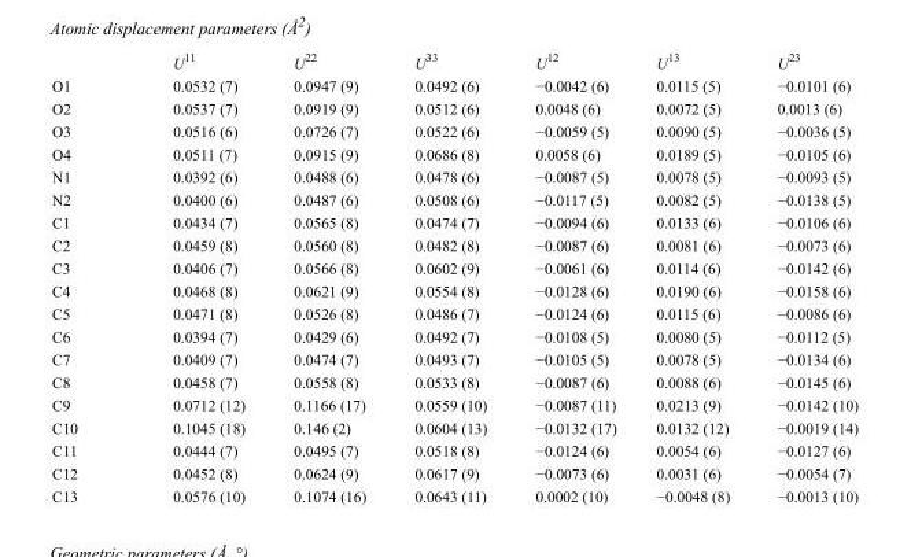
<table><thead><tr><td></td><td>U<sup>11</sup></td><td>U<sup>22</sup></td><td>U<sup>33</sup></td><td>U<sup>12</sup></td><td>U<sup>13</sup></td><td>U<sup>23</sup></td></tr></thead><tbody><tr><td>O1</td><td>0.0532 (7)</td><td>0.0947 (9)</td><td>0.0492 (6)</td><td>−0.0042 (6)</td><td>0.0115 (5)</td><td>−0.0101 (6)</td></tr><tr><td>O2</td><td>0.0537 (7)</td><td>0.0919 (9)</td><td>0.0512 (6)</td><td>0.0048 (6)</td><td>0.0072 (5)</td><td>0.0013 (6)</td></tr><tr><td>O3</td><td>0.0516 (6)</td><td>0.0726 (7)</td><td>0.0522 (6)</td><td>−0.0059 (5)</td><td>0.0090 (5)</td><td>−0.0036 (5)</td></tr><tr><td>O4</td><td>0.0511 (7)</td><td>0.0915 (9)</td><td>0.0686 (8)</td><td>0.0058 (6)</td><td>0.0189 (5)</td><td>−0.0105 (6)</td></tr><tr><td>N1</td><td>0.0392 (6)</td><td>0.0488 (6)</td><td>0.0478 (6)</td><td>−0.0087 (5)</td><td>0.0078 (5)</td><td>−0.0093 (5)</td></tr><tr><td>N2</td><td>0.0400 (6)</td><td>0.0487 (6)</td><td>0.0508 (6)</td><td>−0.0117 (5)</td><td>0.0082 (5)</td><td>−0.0138 (5)</td></tr><tr><td>C1</td><td>0.0434 (7)</td><td>0.0565 (8)</td><td>0.0474 (7)</td><td>−0.0094 (6)</td><td>0.0133 (6)</td><td>−0.0106 (6)</td></tr><tr><td>C2</td><td>0.0459 (8)</td><td>0.0560 (8)</td><td>0.0482 (8)</td><td>−0.0087 (6)</td><td>0.0081 (6)</td><td>−0.0073 (6)</td></tr><tr><td>C3</td><td>0.0406 (7)</td><td>0.0566 (8)</td><td>0.0602 (9)</td><td>−0.0061 (6)</td><td>0.0114 (6)</td><td>−0.0142 (6)</td></tr><tr><td>C4</td><td>0.0468 (8)</td><td>0.0621 (9)</td><td>0.0554 (8)</td><td>−0.0128 (6)</td><td>0.0190 (6)</td><td>−0.0158 (6)</td></tr><tr><td>C5</td><td>0.0471 (8)</td><td>0.0526 (8)</td><td>0.0486 (7)</td><td>−0.0124 (6)</td><td>0.0115 (6)</td><td>−0.0086 (6)</td></tr><tr><td>C6</td><td>0.0394 (7)</td><td>0.0429 (6)</td><td>0.0492 (7)</td><td>−0.0108 (5)</td><td>0.0080 (5)</td><td>−0.0112 (5)</td></tr><tr><td>C7</td><td>0.0409 (7)</td><td>0.0474 (7)</td><td>0.0493 (7)</td><td>−0.0105 (5)</td><td>0.0078 (5)</td><td>−0.0134 (6)</td></tr><tr><td>C8</td><td>0.0458 (7)</td><td>0.0558 (8)</td><td>0.0533 (8)</td><td>−0.0087 (6)</td><td>0.0088 (6)</td><td>−0.0145 (6)</td></tr><tr><td>C9</td><td>0.0712 (12)</td><td>0.1166 (17)</td><td>0.0559 (10)</td><td>−0.0087 (11)</td><td>0.0213 (9)</td><td>−0.0142 (10)</td></tr><tr><td>C10</td><td>0.1045 (18)</td><td>0.146 (2)</td><td>0.0604 (13)</td><td>−0.0132 (17)</td><td>0.0132 (12)</td><td>−0.0019 (14)</td></tr><tr><td>C11</td><td>0.0444 (7)</td><td>0.0495 (7)</td><td>0.0518 (8)</td><td>−0.0124 (6)</td><td>0.0054 (6)</td><td>−0.0127 (6)</td></tr><tr><td>C12</td><td>0.0452 (8)</td><td>0.0624 (9)</td><td>0.0617 (9)</td><td>−0.0073 (6)</td><td>0.0031 (6)</td><td>−0.0054 (7)</td></tr><tr><td>C13</td><td>0.0576 (10)</td><td>0.1074 (16)</td><td>0.0643 (11)</td><td>0.0002 (10)</td><td>−0.0048 (8)</td><td>−0.0013 (10)</td></tr></tbody></table>